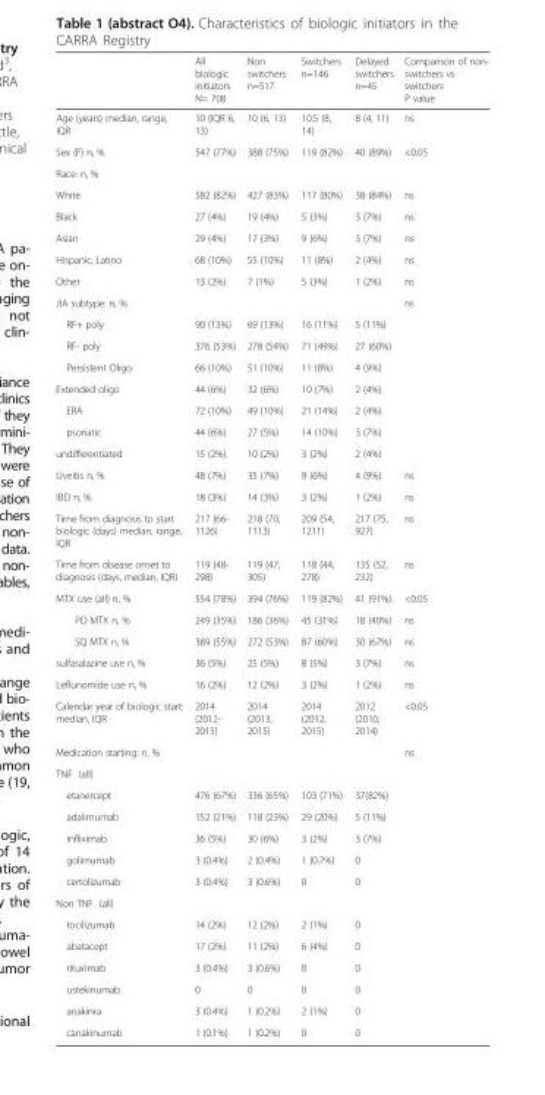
<table><thead><tr><td></td><td>All biologic initiators N= 708</td><td>Non switchers n=517</td><td>Switchers n=146</td><td>Delayed switchers n=45</td><td>Comparison of non- switchers vs switchers P value</td></tr></thead><tbody><tr><td>Age (years) median, range, IQR</td><td>10 (IQR 6, 13)</td><td>10 (6, 13)</td><td>10.5 (8, 14)</td><td>8 (4, 11)</td><td>ns</td></tr><tr><td>Sex (F) n, %</td><td>547 (77%)</td><td>388 (75%)</td><td>119 (82%)</td><td>40 (89%)</td><td>&lt;0.05</td></tr><tr><td colspan="6">Race: n, %</td></tr><tr><td>White</td><td>582 (82%)</td><td>427 (83%)</td><td>117 (80%)</td><td>38 (84%)</td><td>ns</td></tr><tr><td>Black</td><td>27 (4%)</td><td>19 (4%)</td><td>5 (3%)</td><td>3 (7%)</td><td>ns</td></tr><tr><td>Asian</td><td>29 (4%)</td><td>17 (3%)</td><td>9 (6%)</td><td>3 (7%)</td><td>ns</td></tr><tr><td>Hispanic, Latino</td><td>68 (10%)</td><td>55 (10%)</td><td>11 (8%)</td><td>2 (4%)</td><td>ns</td></tr><tr><td>Other</td><td>13 (2%)</td><td>7 (1%)</td><td>5 (3%)</td><td>1 (2%)</td><td>ns</td></tr><tr><td>JIA subtype: n, %</td><td></td><td></td><td></td><td></td><td>ns</td></tr><tr><td>RF+ poly</td><td>90 (13%)</td><td>69 (13%)</td><td>16 (11%)</td><td>5 (11%)</td><td></td></tr><tr><td>RF- poly</td><td>376 (53%)</td><td>278 (54%)</td><td>71 (49%)</td><td>27 (60%)</td><td></td></tr><tr><td>Persistent Oligo</td><td>66 (10%)</td><td>51 (10%)</td><td>11 (8%)</td><td>4 (9%)</td><td></td></tr><tr><td>Extended oligo</td><td>44 (6%)</td><td>32 (6%)</td><td>10 (7%)</td><td>2 (4%)</td><td></td></tr><tr><td>ERA</td><td>72 (10%)</td><td>49 (10%)</td><td>21 (14%)</td><td>2 (4%)</td><td></td></tr><tr><td>psoriatic</td><td>44 (6%)</td><td>27 (5%)</td><td>14 (10%)</td><td>3 (7%)</td><td></td></tr><tr><td>undifferentiated</td><td>15 (2%)</td><td>10 (2%)</td><td>3 (2%)</td><td>2 (4%)</td><td></td></tr><tr><td>Uveitis n, %</td><td>48 (7%)</td><td>35 (7%)</td><td>9 (6%)</td><td>4 (9%)</td><td>ns</td></tr><tr><td>IBD n, %</td><td>18 (3%)</td><td>14 (3%)</td><td>3 (2%)</td><td>1 (2%)</td><td>ns</td></tr><tr><td>Time from diagnosis to start biologic (days) median, range, IQR</td><td>217 (66- 1126)</td><td>218 (70, 1113)</td><td>209 (54, 1211)</td><td>217 (75, 927)</td><td>ns</td></tr><tr><td>Time from disease onset to diagnosis (days, median, IQR)</td><td>119 (48- 298)</td><td>119 (47, 305)</td><td>118 (44, 278)</td><td>135 (52, 232)</td><td>ns</td></tr><tr><td>MTX use (all) n, %</td><td>554 (78%)</td><td>394 (76%)</td><td>119 (82%)</td><td>41 (91%)</td><td>&lt;0.05</td></tr><tr><td>PO MTX n, %</td><td>249 (35%)</td><td>186 (36%)</td><td>45 (31%)</td><td>18 (40%)</td><td>ns</td></tr><tr><td>SQ MTX n, %</td><td>389 (55%)</td><td>272 (53%)</td><td>87 (60%)</td><td>30 (67%)</td><td>ns</td></tr><tr><td>sulfasalazine use n, %</td><td>36 (5%)</td><td>25 (5%)</td><td>8 (5%)</td><td>3 (7%)</td><td>ns</td></tr><tr><td>Leflunomide use n, %</td><td>16 (2%)</td><td>12 (2%)</td><td>3 (2%)</td><td>1 (2%)</td><td>ns</td></tr><tr><td>Calendar year of biologic start: median, IQR</td><td>2014 (2012- 2015)</td><td>2014 (2013, 2015)</td><td>2014 (2012, 2015)</td><td>2012 (2010, 2014)</td><td>&lt;0.05</td></tr><tr><td>Medication starting: n, %</td><td></td><td></td><td></td><td></td><td>ns</td></tr><tr><td colspan="6">TNF (all)</td></tr><tr><td>etanercept</td><td>476 (67%)</td><td>336 (65%)</td><td>103 (71%)</td><td>37(82%)</td><td></td></tr><tr><td>adalimumab</td><td>152 (21%)</td><td>118 (23%)</td><td>29 (20%)</td><td>5 (11%)</td><td></td></tr><tr><td>infliximab</td><td>36 (5%)</td><td>30 (6%)</td><td>3 (2%)</td><td>3 (7%)</td><td></td></tr><tr><td>golimumab</td><td>3 (0.4%)</td><td>2 (0.4%)</td><td>1 (0.7%)</td><td>0</td><td></td></tr><tr><td>certolizumab</td><td>3 (0.4%)</td><td>3 (0.6%)</td><td>0</td><td>0</td><td></td></tr><tr><td colspan="6">Non TNF (all)</td></tr><tr><td>tocilizumab</td><td>14 (2%)</td><td>12 (2%)</td><td>2 (1%)</td><td>0</td><td></td></tr><tr><td>abatacept</td><td>17 (2%)</td><td>11 (2%)</td><td>6 (4%)</td><td>0</td><td></td></tr><tr><td>rituximab</td><td>3 (0.4%)</td><td>3 (0.6%)</td><td>0</td><td>0</td><td></td></tr><tr><td>ustekinumab</td><td>0</td><td>0</td><td>0</td><td>0</td><td></td></tr><tr><td>anakinra</td><td>3 (0.4%)</td><td>1 (0.2%)</td><td>2 (1%)</td><td>0</td><td></td></tr><tr><td>canakinumab</td><td>1 (0.1%)</td><td>1 (0.2%)</td><td>0</td><td>0</td><td></td></tr></tbody></table>